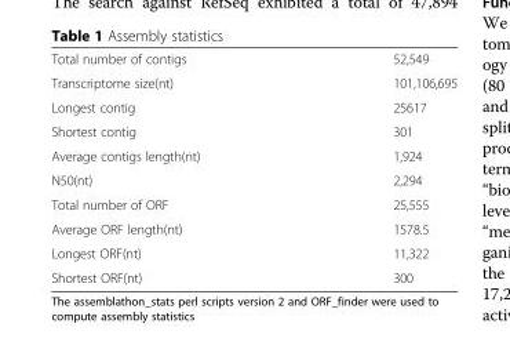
<table><tbody><tr><td>Total number of contigs</td><td>52,549</td></tr><tr><td>Transcriptome size(nt)</td><td>101,106,695</td></tr><tr><td>Longest contig</td><td>25617</td></tr><tr><td>Shortest contig</td><td>301</td></tr><tr><td>Average contigs length(nt)</td><td>1,924</td></tr><tr><td>N50(nt)</td><td>2,294</td></tr><tr><td>Total number of ORF</td><td>25,555</td></tr><tr><td>Average ORF length(nt)</td><td>1578.5</td></tr><tr><td>Longest ORF(nt)</td><td>11,322</td></tr><tr><td>Shortest ORF(nt)</td><td>300</td></tr></tbody></table>